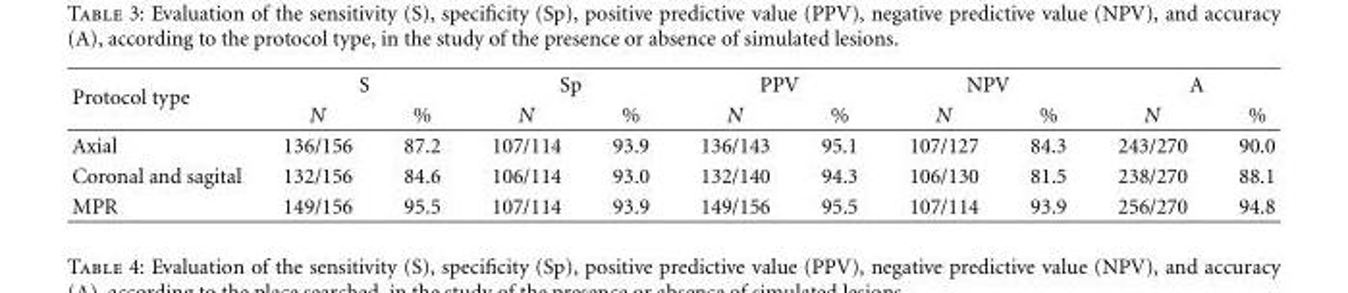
<table><thead><tr><td rowspan="2">Protocol type</td><td colspan="2">S</td><td colspan="2">Sp</td><td colspan="2">PPV</td><td colspan="2">NPV</td><td colspan="2">A</td></tr><tr><td>N</td><td>%</td><td>N</td><td>%</td><td>N</td><td>%</td><td>N</td><td>%</td><td>N</td><td>%</td></tr></thead><tbody><tr><td>Axial</td><td>136/156</td><td>87.2</td><td>107/114</td><td>93.9</td><td>136/143</td><td>95.1</td><td>107/127</td><td>84.3</td><td>243/270</td><td>90.0</td></tr><tr><td>Coronal and sagital</td><td>132/156</td><td>84.6</td><td>106/114</td><td>93.0</td><td>132/140</td><td>94.3</td><td>106/130</td><td>81.5</td><td>238/270</td><td>88.1</td></tr><tr><td>MPR</td><td>149/156</td><td>95.5</td><td>107/114</td><td>93.9</td><td>149/156</td><td>95.5</td><td>107/114</td><td>93.9</td><td>256/270</td><td>94.8</td></tr></tbody></table>